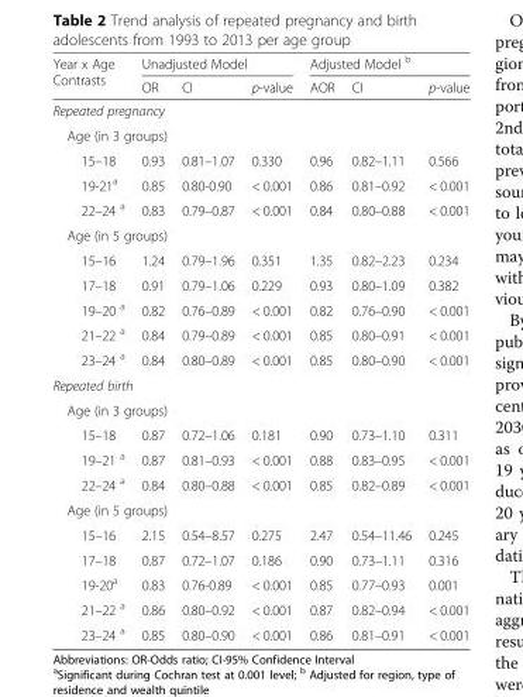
<table><thead><tr><td rowspan="2">Year x Age Contrasts</td><td colspan="3">Unadjusted Model</td><td colspan="3">Adjusted Model <sup>b</sup></td></tr><tr><td>OR</td><td>CI</td><td>p-value</td><td>AOR</td><td>CI</td><td>p-value</td></tr></thead><tbody><tr><td colspan="7">Repeated pregnancy</td></tr><tr><td colspan="7">Age (in 3 groups)</td></tr><tr><td>15–18</td><td>0.93</td><td>0.81–1.07</td><td>0.330</td><td>0.96</td><td>0.82–1.11</td><td>0.566</td></tr><tr><td>19-21<sup>a</sup></td><td>0.85</td><td>0.80-0.90</td><td>&lt; 0.001</td><td>0.86</td><td>0.81–0.92</td><td>&lt; 0.001</td></tr><tr><td>22–24 <sup>a</sup></td><td>0.83</td><td>0.79–0.87</td><td>&lt; 0.001</td><td>0.84</td><td>0.80–0.88</td><td>&lt; 0.001</td></tr><tr><td colspan="7">Age (in 5 groups)</td></tr><tr><td>15–16</td><td>1.24</td><td>0.79–1.96</td><td>0.351</td><td>1.35</td><td>0.82–2.23</td><td>0.234</td></tr><tr><td>17–18</td><td>0.91</td><td>0.79–1.06</td><td>0.229</td><td>0.93</td><td>0.80–1.09</td><td>0.382</td></tr><tr><td>19–20 <sup>a</sup></td><td>0.82</td><td>0.76–0.89</td><td>&lt; 0.001</td><td>0.82</td><td>0.76–0.90</td><td>&lt; 0.001</td></tr><tr><td>21–22 <sup>a</sup></td><td>0.84</td><td>0.79–0.89</td><td>&lt; 0.001</td><td>0.85</td><td>0.80–0.91</td><td>&lt; 0.001</td></tr><tr><td>23–24 <sup>a</sup></td><td>0.84</td><td>0.80–0.89</td><td>&lt; 0.001</td><td>0.85</td><td>0.80–0.90</td><td>&lt; 0.001</td></tr><tr><td colspan="7">Repeated birth</td></tr><tr><td colspan="7">Age (in 3 groups)</td></tr><tr><td>15–18</td><td>0.87</td><td>0.72–1.06</td><td>0.181</td><td>0.90</td><td>0.73–1.10</td><td>0.311</td></tr><tr><td>19–21 <sup>a</sup></td><td>0.87</td><td>0.81–0.93</td><td>&lt; 0.001</td><td>0.88</td><td>0.83–0.95</td><td>&lt; 0.001</td></tr><tr><td>22–24 <sup>a</sup></td><td>0.84</td><td>0.80–0.88</td><td>&lt; 0.001</td><td>0.85</td><td>0.82–0.89</td><td>&lt; 0.001</td></tr><tr><td colspan="7">Age (in 5 groups)</td></tr><tr><td>15–16</td><td>2.15</td><td>0.54–8.57</td><td>0.275</td><td>2.47</td><td>0.54–11.46</td><td>0.245</td></tr><tr><td>17–18</td><td>0.87</td><td>0.72–1.07</td><td>0.186</td><td>0.90</td><td>0.73–1.11</td><td>0.316</td></tr><tr><td>19-20<sup>a</sup></td><td>0.83</td><td>0.76-0.89</td><td>&lt; 0.001</td><td>0.85</td><td>0.77–0.93</td><td>0.001</td></tr><tr><td>21–22 <sup>a</sup></td><td>0.86</td><td>0.80–0.92</td><td>&lt; 0.001</td><td>0.87</td><td>0.82–0.94</td><td>&lt; 0.001</td></tr><tr><td>23–24 <sup>a</sup></td><td>0.85</td><td>0.80–0.90</td><td>&lt; 0.001</td><td>0.86</td><td>0.81–0.91</td><td>&lt; 0.001</td></tr></tbody></table>